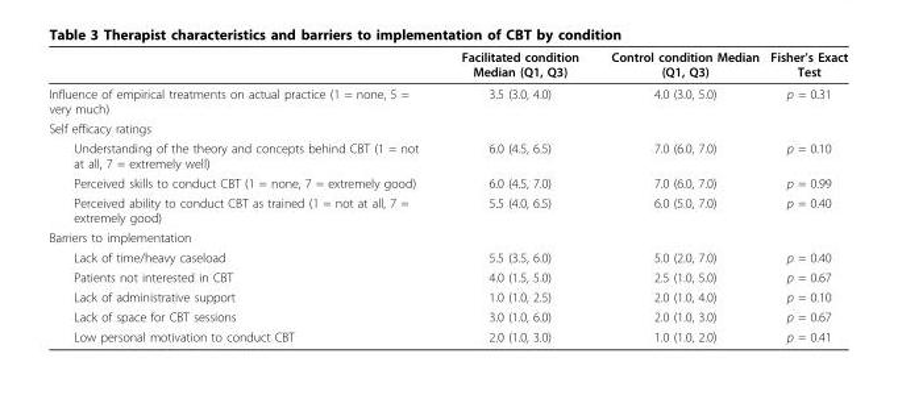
<table><thead><tr><td></td><td>Facilitated condition Median (Q1, Q3)</td><td>Control condition Median (Q1, Q3)</td><td>Fisher’s Exact Test</td></tr></thead><tbody><tr><td>Influence of empirical treatments on actual practice (1 = none, 5 = very much)</td><td>3.5 (3.0, 4.0)</td><td>4.0 (3.0, 5.0)</td><td>p = 0.31</td></tr><tr><td colspan="4">Self efficacy ratings</td></tr><tr><td>Understanding of the theory and concepts behind CBT (1 = not at all, 7 = extremely well)</td><td>6.0 (4.5, 6.5)</td><td>7.0 (6.0, 7.0)</td><td>p = 0.10</td></tr><tr><td>Perceived skills to conduct CBT (1 = none, 7 = extremely good)</td><td>6.0 (4.5, 7.0)</td><td>7.0 (6.0, 7.0)</td><td>p = 0.99</td></tr><tr><td>Perceived ability to conduct CBT as trained (1 = not at all, 7 = extremely good)</td><td>5.5 (4.0, 6.5)</td><td>6.0 (5.0, 7.0)</td><td>p = 0.40</td></tr><tr><td colspan="4">Barriers to implementation</td></tr><tr><td>Lack of time/heavy caseload</td><td>5.5 (3.5, 6.0)</td><td>5.0 (2.0, 7.0)</td><td>p = 0.40</td></tr><tr><td>Patients not interested in CBT</td><td>4.0 (1.5, 5.0)</td><td>2.5 (1.0, 5.0)</td><td>p = 0.67</td></tr><tr><td>Lack of administrative support</td><td>1.0 (1.0, 2.5)</td><td>2.0 (1.0, 4.0)</td><td>p = 0.10</td></tr><tr><td>Lack of space for CBT sessions</td><td>3.0 (1.0, 6.0)</td><td>2.0 (1.0, 3.0)</td><td>p = 0.67</td></tr><tr><td>Low personal motivation to conduct CBT</td><td>2.0 (1.0, 3.0)</td><td>1.0 (1.0, 2.0)</td><td>p = 0.41</td></tr></tbody></table>